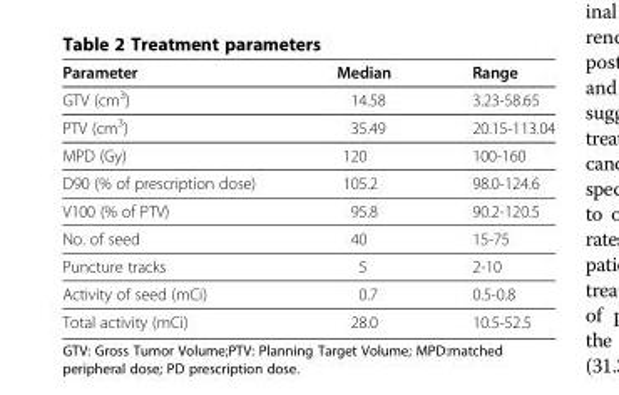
<table><thead><tr><td>Parameter</td><td>Median</td><td>Range</td></tr></thead><tbody><tr><td>GTV (cm<sup>3</sup>)</td><td>14.58</td><td>3.23-58.65</td></tr><tr><td>PTV (cm<sup>3</sup>)</td><td>35.49</td><td>20.15-113.04</td></tr><tr><td>MPD (Gy)</td><td>120</td><td>100-160</td></tr><tr><td>D90 (% of prescription dose)</td><td>105.2</td><td>98.0-124.6</td></tr><tr><td>V100 (% of PTV)</td><td>95.8</td><td>90.2-120.5</td></tr><tr><td>No. of seed</td><td>40</td><td>15-75</td></tr><tr><td>Puncture tracks</td><td>5</td><td>2-10</td></tr><tr><td>Activity of seed (mCi)</td><td>0.7</td><td>0.5-0.8</td></tr><tr><td>Total activity (mCi)</td><td>28.0</td><td>10.5-52.5</td></tr></tbody></table>